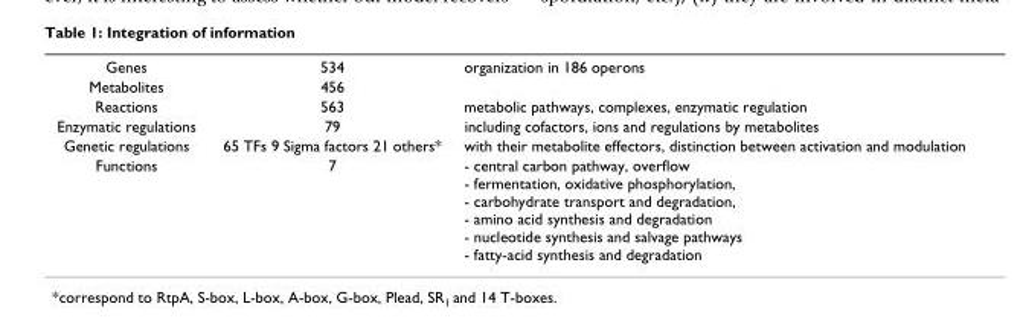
<table><tbody><tr><td>Genes</td><td>534</td><td>organization in 186 operons</td></tr><tr><td>Metabolites</td><td>456</td><td></td></tr><tr><td>Reactions</td><td>563</td><td>metabolic pathways, complexes, enzymatic regulation</td></tr><tr><td>Enzymatic regulations</td><td>79</td><td>including cofactors, ions and regulations by metabolites</td></tr><tr><td>Genetic regulations</td><td>65 TFs 9 Sigma factors 21 others*</td><td>with their metabolite effectors, distinction between activation and modulation</td></tr><tr><td>Functions</td><td>7</td><td>- central carbon pathway, overflow - fermentation, oxidative phosphorylation, - carbohydrate transport and degradation, - amino acid synthesis and degradation - nucleotide synthesis and salvage pathways - fatty-acid synthesis and degradation</td></tr></tbody></table>